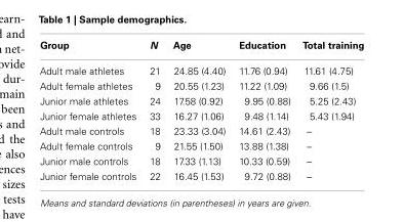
<table><thead><tr><td>Group</td><td>N</td><td>Age</td><td>Education</td><td>Total training</td></tr></thead><tbody><tr><td>Adult male athletes</td><td>21</td><td>24.85 (4.40)</td><td>11.76 (0.94)</td><td>11.61 (4.75)</td></tr><tr><td>Adult female athletes</td><td>9</td><td>20.55 (1.23)</td><td>11.22 (1.09)</td><td>9.66 (1.5)</td></tr><tr><td>Junior male athletes</td><td>24</td><td>17.58 (0.92)</td><td>9.95 (0.88)</td><td>5.25 (2.43)</td></tr><tr><td>Junior female athletes</td><td>33</td><td>16.27 (1.06)</td><td>9.48 (1.14)</td><td>5.43 (1.94)</td></tr><tr><td>Adult male controls</td><td>18</td><td>23.33 (3.04)</td><td>14.61 (2.43)</td><td>–</td></tr><tr><td>Adult female controls</td><td>9</td><td>21.55 (1.50)</td><td>13.88 (1.38)</td><td>–</td></tr><tr><td>Junior male controls</td><td>18</td><td>17.33 (1.13)</td><td>10.33 (0.59)</td><td>–</td></tr><tr><td>Junior female controls</td><td>22</td><td>16.45 (1.53)</td><td>9.72 (0.88)</td><td>–</td></tr></tbody></table>